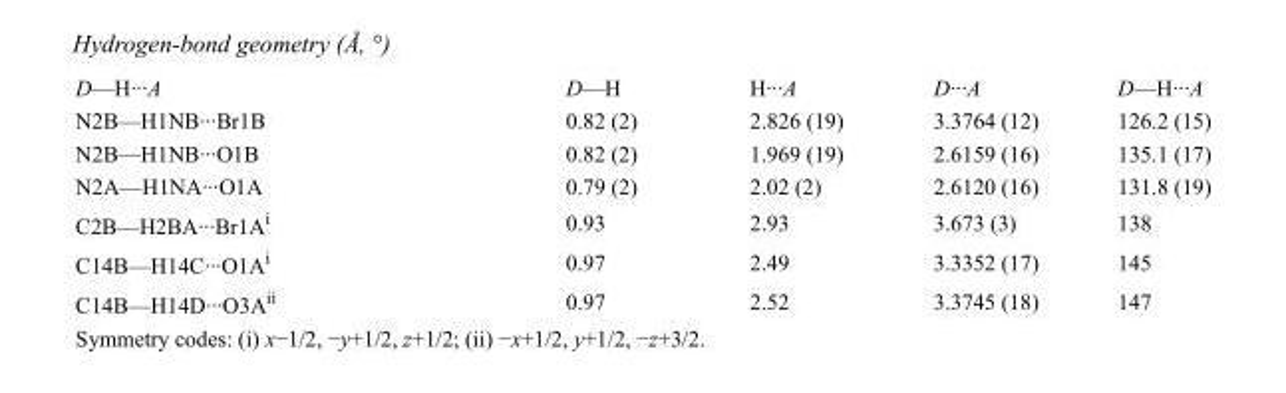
<table><tbody><tr><td>D—H···A</td><td>D—H</td><td>H···A</td><td>D···A</td><td>D—H···A</td></tr><tr><td>N2B—H1NB···Br1B</td><td>0.82 (2)</td><td>2.826 (19)</td><td>3.3764 (12)</td><td>126.2 (15)</td></tr><tr><td>N2B—H1NB···O1B</td><td>0.82 (2)</td><td>1.969 (19)</td><td>2.6159 (16)</td><td>135.1 (17)</td></tr><tr><td>N2A—H1NA···O1A</td><td>0.79 (2)</td><td>2.02 (2)</td><td>2.6120 (16)</td><td>131.8 (19)</td></tr><tr><td>C2B—H2BA···Br1A<sup>i</sup></td><td>0.93</td><td>2.93</td><td>3.673 (3)</td><td>138</td></tr><tr><td>C14B—H14C···O1A<sup>i</sup></td><td>0.97</td><td>2.49</td><td>3.3352 (17)</td><td>145</td></tr><tr><td>C14B—H14D···O3A<sup>ii</sup></td><td>0.97</td><td>2.52</td><td>3.3745 (18)</td><td>147</td></tr></tbody></table>